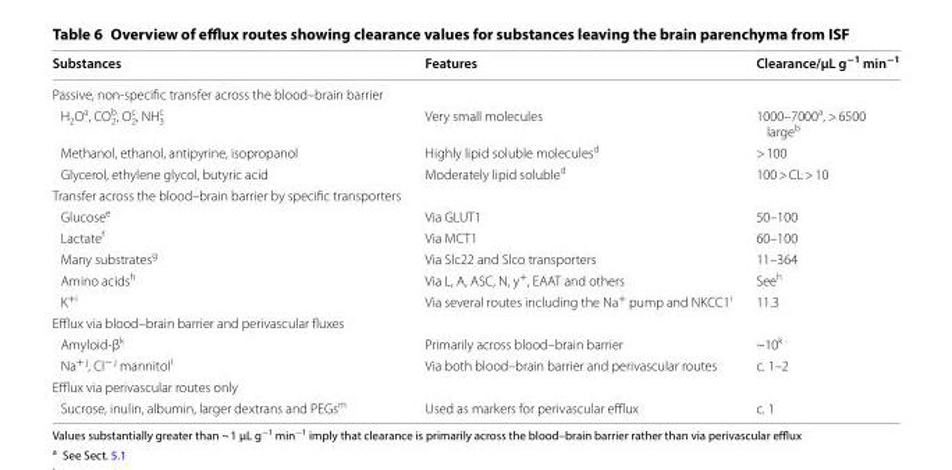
<table><thead><tr><td>Substances</td><td>Features</td><td>Clearance/µL g<sup>−1</sup> min<sup>−1</sup></td></tr></thead><tbody><tr><td colspan="3">Passive, non-specific transfer across the blood–brain barrier</td></tr><tr><td>H<sub>2</sub>O<sup>a</sup>, CO<sub>2</sub> <sup>b</sup>, O<sub>2</sub> <sup>c</sup>, NH<sub>3</sub> <sup>c</sup></td><td>Very small molecules</td><td>1000–7000<sup>a</sup>, &gt; 6500 large<sup>b</sup></td></tr><tr><td>Methanol, ethanol, antipyrine, isopropanol</td><td>Highly lipid soluble molecules<sup>d</sup></td><td>&gt; 100</td></tr><tr><td>Glycerol, ethylene glycol, butyric acid</td><td>Moderately lipid soluble<sup>d</sup></td><td>100 &gt; CL &gt; 10</td></tr><tr><td colspan="3">Transfer across the blood–brain barrier by specific transporters</td></tr><tr><td>Glucose<sup>e</sup></td><td>Via GLUT1</td><td>50–100</td></tr><tr><td>Lactate<sup>f</sup></td><td>Via MCT1</td><td>60–100</td></tr><tr><td>Many substrates<sup>g</sup></td><td>Via Slc22 and Slco transporters</td><td>11–364</td></tr><tr><td>Amino acids<sup>h</sup></td><td>Via L, A, ASC, N, y<sup>+</sup>, EAAT and others</td><td>See<sup>h</sup></td></tr><tr><td>K<sup>+i</sup></td><td>Via several routes including the Na<sup>+</sup> pump and NKCC1<sup>i</sup></td><td>11.3</td></tr><tr><td colspan="3">Efflux via blood–brain barrier and perivascular fluxes</td></tr><tr><td>Amyloid-β<sup>k</sup></td><td>Primarily across blood–brain barrier</td><td>~10<sup>k</sup></td></tr><tr><td>Na<sup>+ j</sup>, Cl<sup>− j</sup> mannitol<sup>l</sup></td><td>Via both blood–brain barrier and perivascular routes</td><td>c. 1–2</td></tr><tr><td colspan="3">Efflux via perivascular routes only</td></tr><tr><td>Sucrose, inulin, albumin, larger dextrans and PEGs<sup>m</sup></td><td>Used as markers for perivascular efflux</td><td>c. 1</td></tr></tbody></table>